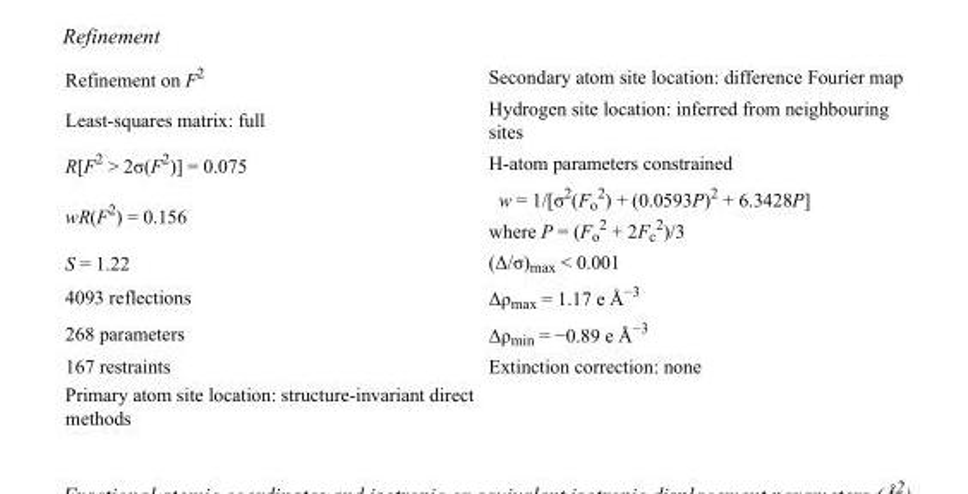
<table><tbody><tr><td>Refinement on F<sup>2</sup></td><td>Secondary atom site location: difference Fourier map</td></tr><tr><td>Least-squares matrix: full</td><td>Hydrogen site location: inferred from neighbouring sites</td></tr><tr><td>R[F<sup>2</sup> &gt; 2σ(F<sup>2</sup>)] = 0.075</td><td>H-atom parameters constrained</td></tr><tr><td>wR(F<sup>2</sup>) = 0.156</td><td>w = 1/[σ<sup>2</sup>(F<sub>o</sub> <sup>2</sup>) + (0.0593P)<sup>2</sup> + 6.3428P] where P = (F<sub>o</sub> <sup>2</sup> + 2F<sub>c</sub> <sup>2</sup>)/3</td></tr><tr><td>S = 1.22</td><td>(Δ/σ)<sub>max</sub> &lt; 0.001</td></tr><tr><td>4093 reflections</td><td>Δρ<sub>max</sub> = 1.17 e Å<sup>−3</sup></td></tr><tr><td>268 parameters</td><td>Δρ<sub>min</sub> = −0.89 e Å<sup>−3</sup></td></tr><tr><td>167 restraints</td><td>Extinction correction: none</td></tr><tr><td>Primary atom site location: structure-invariant direct methods</td><td></td></tr></tbody></table>